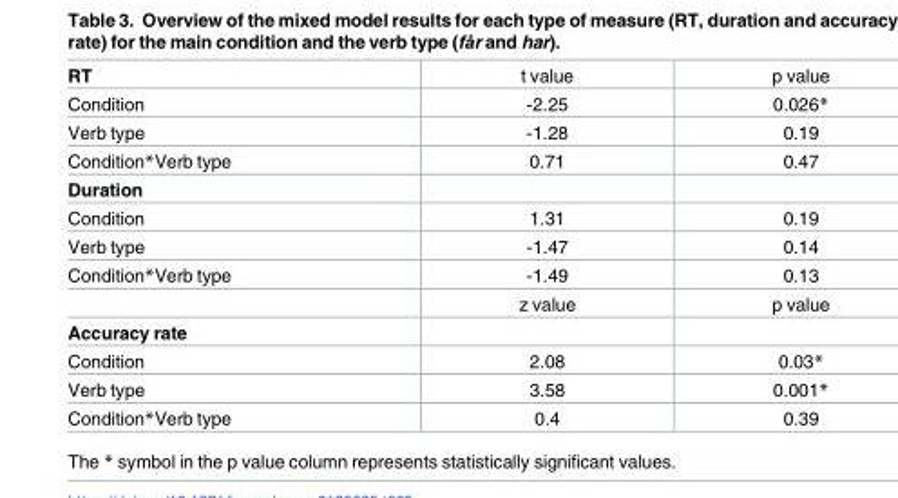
<table><tbody><tr><td>RT</td><td>t value</td><td>p value</td></tr><tr><td>Condition</td><td>-2.25</td><td>0.026*</td></tr><tr><td>Verb type</td><td>-1.28</td><td>0.19</td></tr><tr><td>Condition*Verb type</td><td>0.71</td><td>0.47</td></tr><tr><td colspan="3">Duration</td></tr><tr><td>Condition</td><td>1.31</td><td>0.19</td></tr><tr><td>Verb type</td><td>-1.47</td><td>0.14</td></tr><tr><td rowspan="2">Condition*Verb type</td><td>-1.49</td><td>0.13</td></tr><tr><td>z value</td><td>p value</td></tr><tr><td colspan="3">Accuracy rate</td></tr><tr><td>Condition</td><td>2.08</td><td>0.03*</td></tr><tr><td>Verb type</td><td>3.58</td><td>0.001*</td></tr><tr><td>Condition*Verb type</td><td>0.4</td><td>0.39</td></tr></tbody></table>